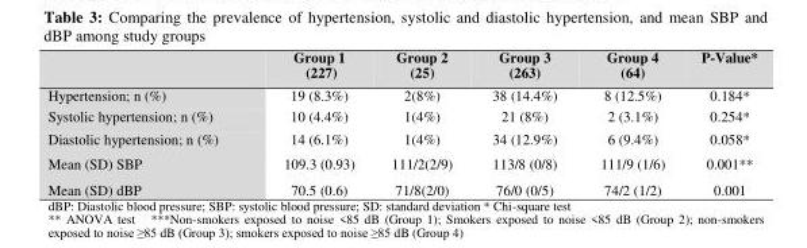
<table><thead><tr><td></td><td>Group 1 (227)</td><td>Group 2 (25)</td><td>Group 3 (263)</td><td>Group 4 (64)</td><td>P-Value*</td></tr></thead><tbody><tr><td>Hypertension; n (%)</td><td>19 (8.3%)</td><td>2(8%)</td><td>38 (14.4%)</td><td>8 (12.5%)</td><td>0.184*</td></tr><tr><td>Systolic hypertension; n (%)</td><td>10 (4.4%)</td><td>1(4%)</td><td>21 (8%)</td><td>2 (3.1%)</td><td>0.254*</td></tr><tr><td>Diastolic hypertension; n (%)</td><td>14 (6.1%)</td><td>1(4%)</td><td>34 (12.9%)</td><td>6 (9.4%)</td><td>0.058*</td></tr><tr><td>Mean (SD) SBP</td><td>109.3 (0.93)</td><td>111/2(2/9)</td><td>113/8 (0/8)</td><td>111/9 (1/6)</td><td>0.001**</td></tr><tr><td>Mean (SD) dBP</td><td>70.5 (0.6)</td><td>71/8(2/0)</td><td>76/0 (0/5)</td><td>74/2 (1/2)</td><td>0.001</td></tr></tbody></table>